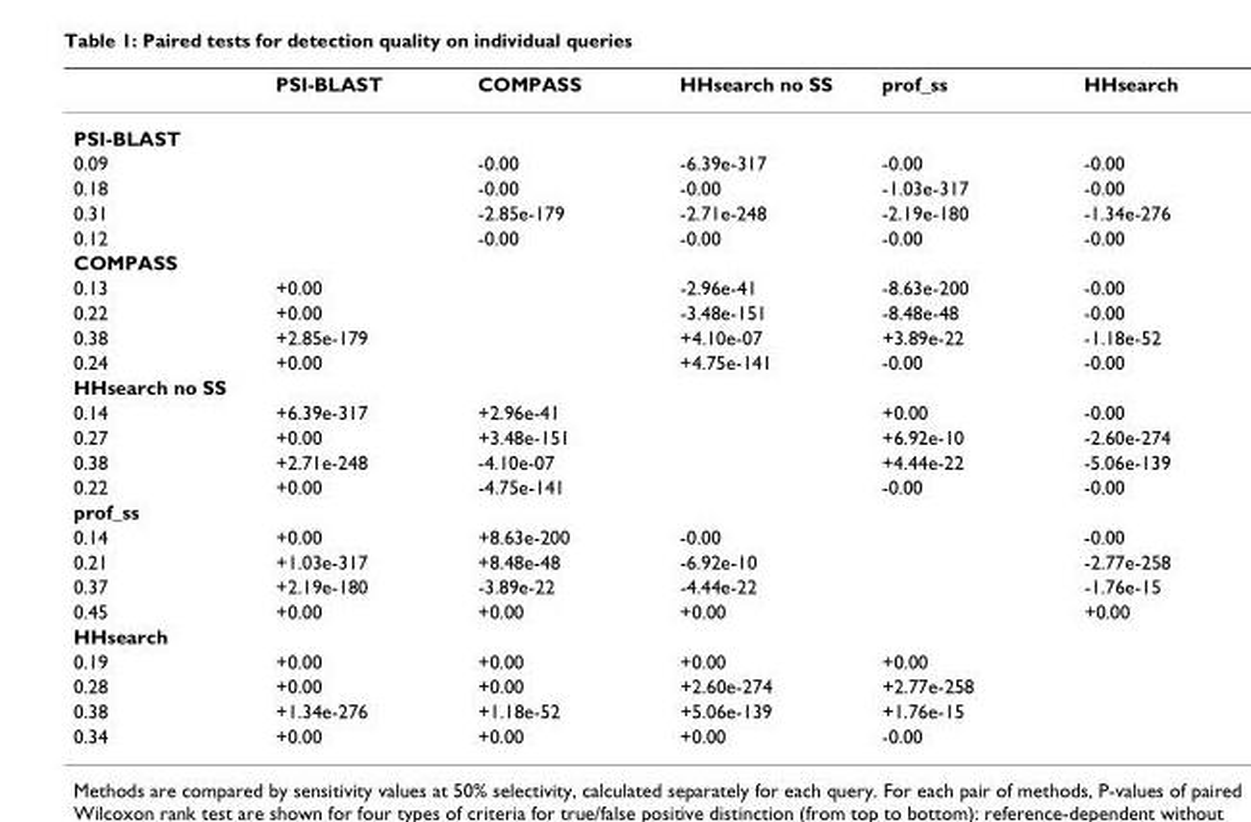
<table><thead><tr><td></td><td>PSI-BLAST</td><td>COMPASS</td><td>HHsearch no SS</td><td>prof_ss</td><td>HHsearch</td></tr></thead><tbody><tr><td colspan="6">PSI-BLAST</td></tr><tr><td>0.09</td><td></td><td>-0.00</td><td>-6.39e-317</td><td>-0.00</td><td>-0.00</td></tr><tr><td>0.18</td><td></td><td>-0.00</td><td>-0.00</td><td>-1.03e-317</td><td>-0.00</td></tr><tr><td>0.31</td><td></td><td>-2.85e-179</td><td>-2.71e-248</td><td>-2.19e-180</td><td>-1.34e-276</td></tr><tr><td>0.12</td><td></td><td>-0.00</td><td>-0.00</td><td>-0.00</td><td>-0.00</td></tr><tr><td colspan="6">COMPASS</td></tr><tr><td>0.13</td><td>+0.00</td><td></td><td>-2.96e-41</td><td>-8.63e-200</td><td>-0.00</td></tr><tr><td>0.22</td><td>+0.00</td><td></td><td>-3.48e-151</td><td>-8.48e-48</td><td>-0.00</td></tr><tr><td>0.38</td><td>+2.85e-179</td><td></td><td>+4.10e-07</td><td>+3.89e-22</td><td>-1.18e-52</td></tr><tr><td>0.24</td><td>+0.00</td><td></td><td>+4.75e-141</td><td>-0.00</td><td>-0.00</td></tr><tr><td colspan="6">HHsearch no SS</td></tr><tr><td>0.14</td><td>+6.39e-317</td><td>+2.96e-41</td><td></td><td>+0.00</td><td>-0.00</td></tr><tr><td>0.27</td><td>+0.00</td><td>+3.48e-151</td><td></td><td>+6.92e-10</td><td>-2.60e-274</td></tr><tr><td>0.38</td><td>+2.71e-248</td><td>-4.10e-07</td><td></td><td>+4.44e-22</td><td>-5.06e-139</td></tr><tr><td>0.22</td><td>+0.00</td><td>-4.75e-141</td><td></td><td>-0.00</td><td>-0.00</td></tr><tr><td colspan="6">prof_ss</td></tr><tr><td>0.14</td><td>+0.00</td><td>+8.63e-200</td><td>-0.00</td><td></td><td>-0.00</td></tr><tr><td>0.21</td><td>+1.03e-317</td><td>+8.48e-48</td><td>-6.92e-10</td><td></td><td>-2.77e-258</td></tr><tr><td>0.37</td><td>+2.19e-180</td><td>-3.89e-22</td><td>-4.44e-22</td><td></td><td>-1.76e-15</td></tr><tr><td>0.45</td><td>+0.00</td><td>+0.00</td><td>+0.00</td><td></td><td>+0.00</td></tr><tr><td colspan="6">HHsearch</td></tr><tr><td>0.19</td><td>+0.00</td><td>+0.00</td><td>+0.00</td><td>+0.00</td><td></td></tr><tr><td>0.28</td><td>+0.00</td><td>+0.00</td><td>+2.60e-274</td><td>+2.77e-258</td><td></td></tr><tr><td>0.38</td><td>+1.34e-276</td><td>+1.18e-52</td><td>+5.06e-139</td><td>+1.76e-15</td><td></td></tr><tr><td>0.34</td><td>+0.00</td><td>+0.00</td><td>+0.00</td><td>-0.00</td><td></td></tr></tbody></table>